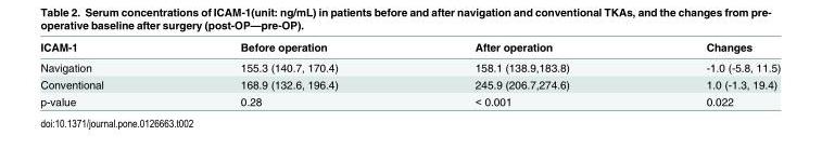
<table><thead><tr><td>ICAM-1</td><td>Before operation</td><td>After operation</td><td>Changes</td></tr></thead><tbody><tr><td>Navigation</td><td>155.3 (140.7, 170.4)</td><td>158.1 (138.9,183.8)</td><td>-1.0 (-5.8, 11.5)</td></tr><tr><td>Conventional</td><td>168.9 (132.6, 196.4)</td><td>245.9 (206.7,274.6)</td><td>1.0 (-1.3, 19.4)</td></tr><tr><td>p-value</td><td>0.28</td><td>&lt; 0.001</td><td>0.022</td></tr></tbody></table>